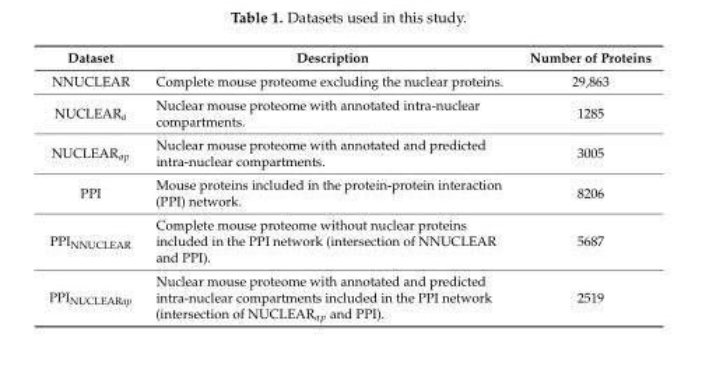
<table><thead><tr><td>Dataset</td><td>Description</td><td>Number of Proteins</td></tr></thead><tbody><tr><td>NNUCLEAR</td><td>Complete mouse proteome excluding the nuclear proteins.</td><td>29,863</td></tr><tr><td>NUCLEAR<sub>a</sub></td><td>Nuclear mouse proteome with annotated intra-nuclear compartments.</td><td>1285</td></tr><tr><td>NUCLEAR<sub>ap</sub></td><td>Nuclear mouse proteome with annotated and predicted intra-nuclear compartments.</td><td>3005</td></tr><tr><td>PPI</td><td>Mouse proteins included in the protein-protein interaction (PPI) network.</td><td>8206</td></tr><tr><td>PPI<sub>NNUCLEAR</sub></td><td>Complete mouse proteome without nuclear proteins included in the PPI network (intersection of NNUCLEAR and PPI).</td><td>5687</td></tr><tr><td>PPI<sub>NUCLEARap</sub></td><td>Nuclear mouse proteome with annotated and predicted intra-nuclear compartments included in the PPI network (intersection of NUCLEAR<sub>ap</sub> and PPI).</td><td>2519</td></tr></tbody></table>